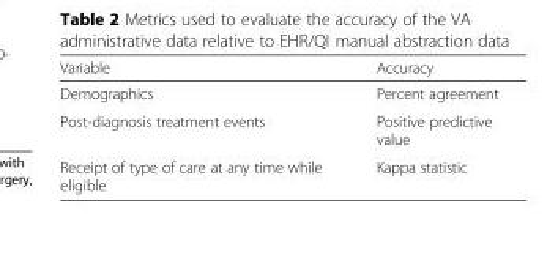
<table><thead><tr><td>Variable</td><td>Accuracy</td></tr></thead><tbody><tr><td>Demographics</td><td>Percent agreement</td></tr><tr><td>Post-diagnosis treatment events</td><td>Positive predictive value</td></tr><tr><td>Receipt of type of care at any time while eligible</td><td>Kappa statistic</td></tr></tbody></table>